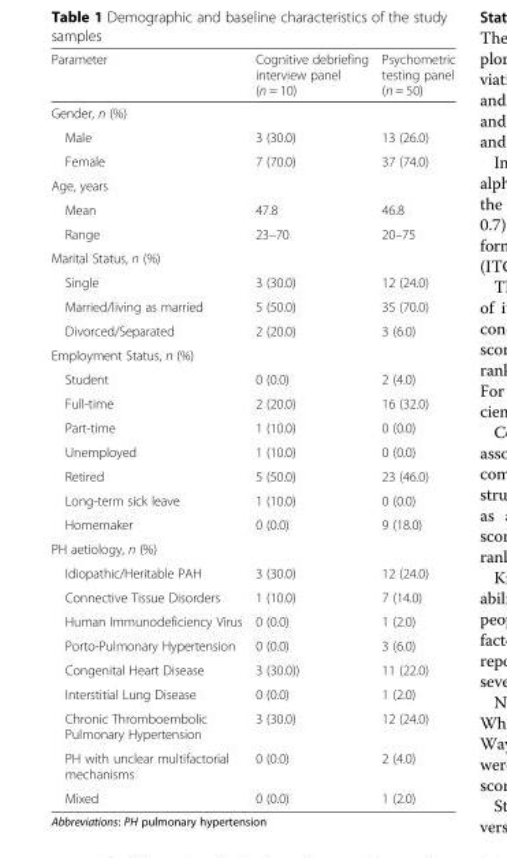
<table><thead><tr><td>Parameter</td><td>Cognitive debriefing interview panel (n = 10)</td><td>Psychometric testing panel (n = 50)</td></tr></thead><tbody><tr><td colspan="3">Gender, n (%)</td></tr><tr><td>Male</td><td>3 (30.0)</td><td>13 (26.0)</td></tr><tr><td>Female</td><td>7 (70.0)</td><td>37 (74.0)</td></tr><tr><td colspan="3">Age, years</td></tr><tr><td>Mean</td><td>47.8</td><td>46.8</td></tr><tr><td>Range</td><td>23–70</td><td>20–75</td></tr><tr><td colspan="3">Marital Status, n (%)</td></tr><tr><td>Single</td><td>3 (30.0)</td><td>12 (24.0)</td></tr><tr><td>Married/living as married</td><td>5 (50.0)</td><td>35 (70.0)</td></tr><tr><td>Divorced/Separated</td><td>2 (20.0)</td><td>3 (6.0)</td></tr><tr><td colspan="3">Employment Status, n (%)</td></tr><tr><td>Student</td><td>0 (0.0)</td><td>2 (4.0)</td></tr><tr><td>Full-time</td><td>2 (20.0)</td><td>16 (32.0)</td></tr><tr><td>Part-time</td><td>1 (10.0)</td><td>0 (0.0)</td></tr><tr><td>Unemployed</td><td>1 (10.0)</td><td>0 (0.0)</td></tr><tr><td>Retired</td><td>5 (50.0)</td><td>23 (46.0)</td></tr><tr><td>Long-term sick leave</td><td>1 (10.0)</td><td>0 (0.0)</td></tr><tr><td>Homemaker</td><td>0 (0.0)</td><td>9 (18.0)</td></tr><tr><td colspan="3">PH aetiology, n (%)</td></tr><tr><td>Idiopathic/Heritable PAH</td><td>3 (30.0)</td><td>12 (24.0)</td></tr><tr><td>Connective Tissue Disorders</td><td>1 (10.0)</td><td>7 (14.0)</td></tr><tr><td>Human Immunodeficiency Virus</td><td>0 (0.0)</td><td>1 (2.0)</td></tr><tr><td>Porto-Pulmonary Hypertension</td><td>0 (0.0)</td><td>3 (6.0)</td></tr><tr><td>Congenital Heart Disease</td><td>3 (30.0))</td><td>11 (22.0)</td></tr><tr><td>Interstitial Lung Disease</td><td>0 (0.0)</td><td>1 (2.0)</td></tr><tr><td>Chronic Thromboembolic Pulmonary Hypertension</td><td>3 (30.0)</td><td>12 (24.0)</td></tr><tr><td>PH with unclear multifactorial mechanisms</td><td>0 (0.0)</td><td>2 (4.0)</td></tr><tr><td>Mixed</td><td>0 (0.0)</td><td>1 (2.0)</td></tr></tbody></table>